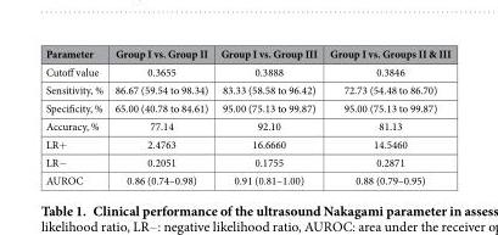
<table><thead><tr><td>Parameter</td><td>Group I vs. Group II</td><td>Group I vs. Group III</td><td>Group I vs. Groups II &amp; III</td></tr></thead><tbody><tr><td>Cutoff value</td><td>0.3655</td><td>0.3888</td><td>0.3846</td></tr><tr><td>Sensitivity, %</td><td>86.67 (59.54 to 98.34)</td><td>83.33 (58.58 to 96.42)</td><td>72.73 (54.48 to 86.70)</td></tr><tr><td>Specificity, %</td><td>65.00 (40.78 to 84.61)</td><td>95.00 (75.13 to 99.87)</td><td>95.00 (75.13 to 99.87)</td></tr><tr><td>Accuracy, %</td><td>77.14</td><td>92.10</td><td>81.13</td></tr><tr><td>LR+</td><td>2.4763</td><td>16.6660</td><td>14.5460</td></tr><tr><td>LR−</td><td>0.2051</td><td>0.1755</td><td>0.2871</td></tr><tr><td>AUROC</td><td>0.86 (0.74–0.98)</td><td>0.91 (0.81–1.00)</td><td>0.88 (0.79–0.95)</td></tr></tbody></table>